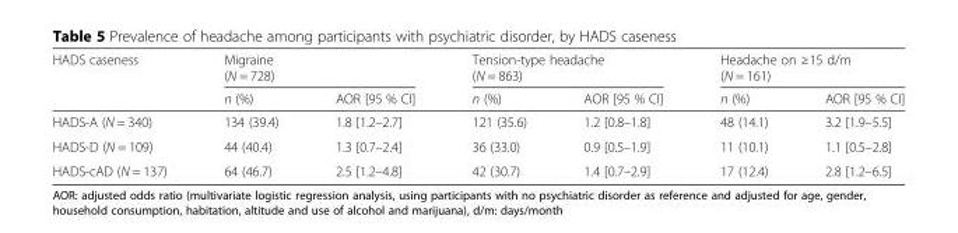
<table><thead><tr><td rowspan="2">HADS caseness</td><td colspan="2">Migraine (N = 728)</td><td colspan="2">Tension-type headache (N = 863)</td><td colspan="2">Headache on ≥15 d/m (N = 161)</td></tr><tr><td>n (%)</td><td>AOR [95 % CI]</td><td>n (%)</td><td>AOR [95 % CI]</td><td>n (%)</td><td>AOR [95 % CI]</td></tr></thead><tbody><tr><td>HADS-A (N = 340)</td><td>134 (39.4)</td><td>1.8 [1.2–2.7]</td><td>121 (35.6)</td><td>1.2 [0.8–1.8]</td><td>48 (14.1)</td><td>3.2 [1.9–5.5]</td></tr><tr><td>HADS-D (N = 109)</td><td>44 (40.4)</td><td>1.3 [0.7–2.4]</td><td>36 (33.0)</td><td>0.9 [0.5–1.9]</td><td>11 (10.1)</td><td>1.1 [0.5–2.8]</td></tr><tr><td>HADS-cAD (N = 137)</td><td>64 (46.7)</td><td>2.5 [1.2–4.8]</td><td>42 (30.7)</td><td>1.4 [0.7–2.9]</td><td>17 (12.4)</td><td>2.8 [1.2–6.5]</td></tr></tbody></table>